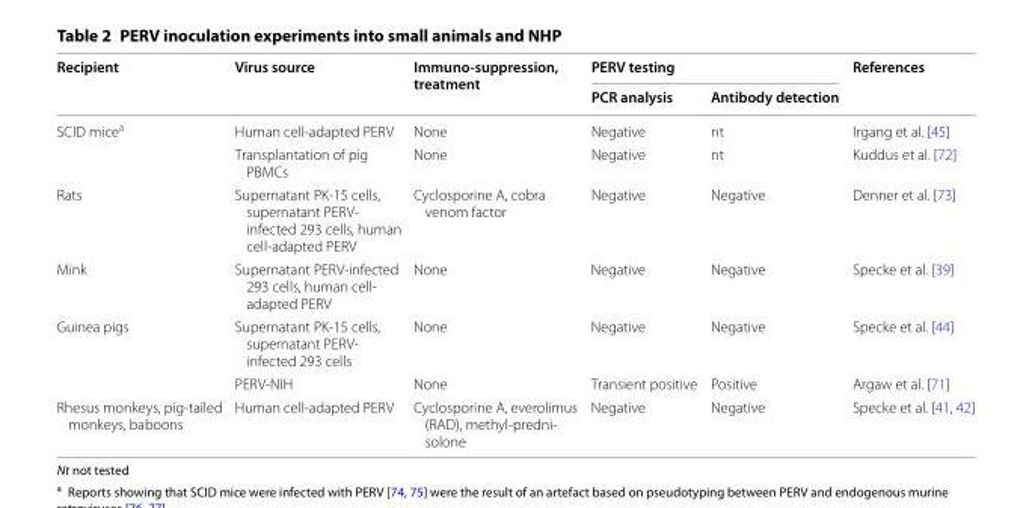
<table><thead><tr><td rowspan="2">Recipient</td><td rowspan="2">Virus source</td><td rowspan="2">Immuno-suppression, treatment</td><td colspan="2">PERV testing</td><td rowspan="2">References</td></tr><tr><td>PCR analysis</td><td>Antibody detection</td></tr></thead><tbody><tr><td rowspan="2">SCID mice<sup>a</sup></td><td>Human cell-adapted PERV</td><td>None</td><td>Negative</td><td>nt</td><td>Irgang et al. [45]</td></tr><tr><td>Transplantation of pig PBMCs</td><td>None</td><td>Negative</td><td>nt</td><td>Kuddus et al. [72]</td></tr><tr><td>Rats</td><td>Supernatant PK-15 cells, supernatant PERV- infected 293 cells, human cell-adapted PERV</td><td>Cyclosporine A, cobra venom factor</td><td>Negative</td><td>Negative</td><td>Denner et al. [73]</td></tr><tr><td>Mink</td><td>Supernatant PERV-infected 293 cells, human cell- adapted PERV</td><td>None</td><td>Negative</td><td>Negative</td><td>Specke et al. [39]</td></tr><tr><td rowspan="2">Guinea pigs</td><td>Supernatant PK-15 cells, supernatant PERV- infected 293 cells</td><td>None</td><td>Negative</td><td>Negative</td><td>Specke et al. [44]</td></tr><tr><td>PERV-NIH</td><td>None</td><td>Transient positive</td><td>Positive</td><td>Argaw et al. [71]</td></tr><tr><td>Rhesus monkeys, pig-tailed monkeys, baboons</td><td>Human cell-adapted PERV</td><td>Cyclosporine A, everolimus (RAD), methyl-predni- solone</td><td>Negative</td><td>Negative</td><td>Specke et al. [41, 42]</td></tr></tbody></table>